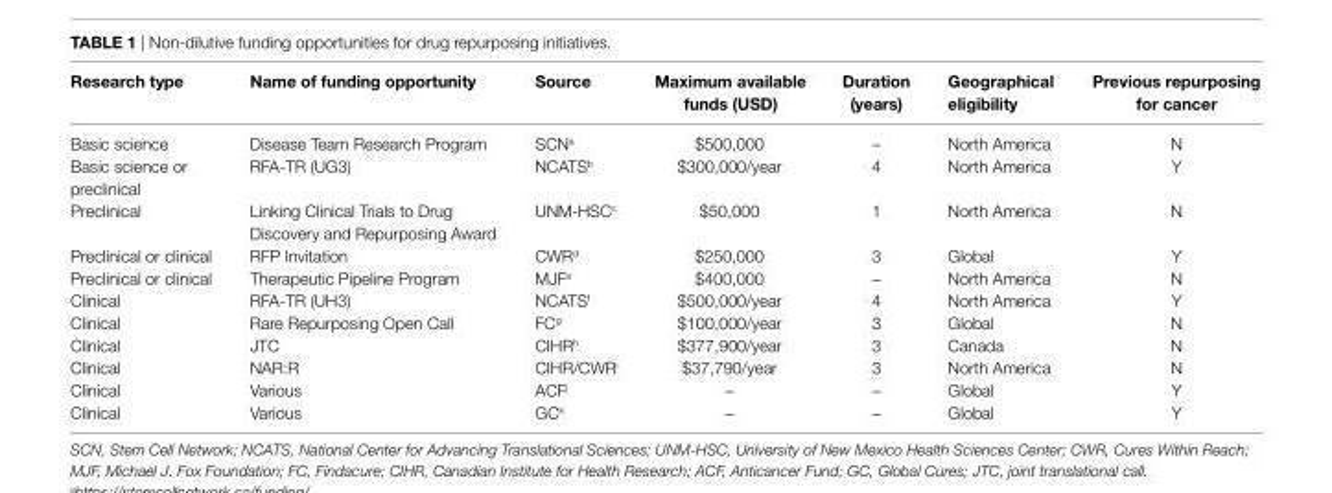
<table><thead><tr><td>Research type</td><td>name of funding opportunity</td><td>Source</td><td>Maximum available funds (USD)</td><td>Duration (years)</td><td>Geographical eligibility</td><td>Previous repurposing for cancer</td></tr></thead><tbody><tr><td>Basic science</td><td>Disease Team Research Program</td><td>SCN<sup>a</sup></td><td>$500,000</td><td>–</td><td>North America</td><td>N</td></tr><tr><td>Basic science or preclinical</td><td>RFA-TR (UG3)</td><td>NCATS<sup>b</sup></td><td>$300,000/year</td><td>4</td><td>North America</td><td>Y</td></tr><tr><td>Preclinical</td><td>Linking Clinical Trials to Drug Discovery and Repurposing Award</td><td>UNM-HSC<sup>c</sup></td><td>$50,000</td><td>1</td><td>North America</td><td>N</td></tr><tr><td>Preclinical or clinical</td><td>RFP Invitation</td><td>CWR<sup>d</sup></td><td>$250,000</td><td>3</td><td>Global</td><td>Y</td></tr><tr><td>Preclinical or clinical</td><td>Therapeutic Pipeline Program</td><td>MJF<sup>e</sup></td><td>$400,000</td><td>–</td><td>North America</td><td>N</td></tr><tr><td>Clinical</td><td>RFA-TR (UH3)</td><td>NCATS<sup>f</sup></td><td>$500,000/year</td><td>4</td><td>North America</td><td>Y</td></tr><tr><td>Clinical</td><td>Rare Repurposing Open Call</td><td>FC<sup>g</sup></td><td>$100,000/year</td><td>3</td><td>Global</td><td>N</td></tr><tr><td>Clinical</td><td>JTC</td><td>CIHR<sup>h</sup></td><td>$377,900/year</td><td>3</td><td>Canada</td><td>N</td></tr><tr><td>Clinical</td><td>NAR:R</td><td>CIHR/CWR<sup>i</sup></td><td>$37,790/year</td><td>3</td><td>North America</td><td>N</td></tr><tr><td>Clinical</td><td>Various</td><td>ACF<sup>j</sup></td><td>–</td><td>–</td><td>Global</td><td>Y</td></tr><tr><td>Clinical</td><td>Various</td><td>GC<sup>k</sup></td><td>–</td><td>–</td><td>Global</td><td>Y</td></tr></tbody></table>